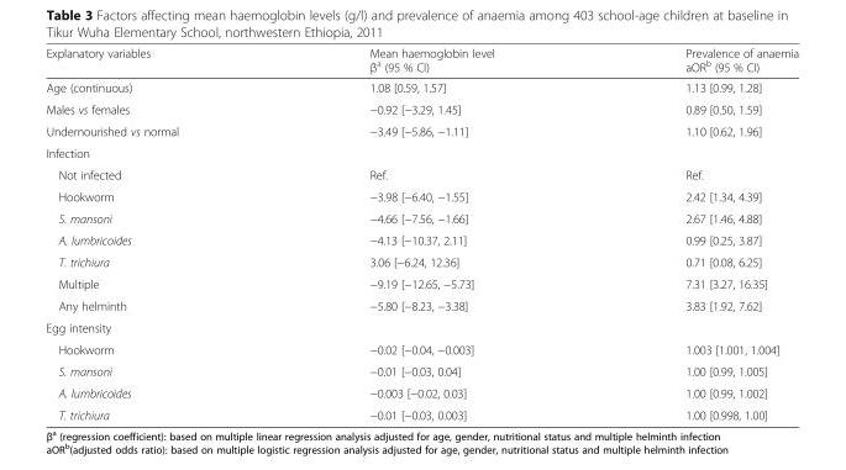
<table><thead><tr><td>Explanatory variables</td><td>Mean haemoglobin level β<sup>a</sup> (95 % CI)</td><td>Prevalence of anaemia aOR<sup>b</sup> (95 % CI)</td></tr></thead><tbody><tr><td>Age (continuous)</td><td>1.08 [0.59, 1.57]</td><td>1.13 [0.99, 1.28]</td></tr><tr><td>Males vs females</td><td>−0.92 [−3.29, 1.45]</td><td>0.89 [0.50, 1.59]</td></tr><tr><td>Undernourished vs normal</td><td>−3.49 [−5.86, −1.11]</td><td>1.10 [0.62, 1.96]</td></tr><tr><td colspan="3">Infection</td></tr><tr><td>Not infected</td><td>Ref.</td><td>Ref.</td></tr><tr><td>Hookworm</td><td>−3.98 [−6.40, −1.55]</td><td>2.42 [1.34, 4.39]</td></tr><tr><td>S. mansoni</td><td>−4.66 [−7.56, −1.66]</td><td>2.67 [1.46, 4.88]</td></tr><tr><td>A. lumbricoides</td><td>−4.13 [−10.37, 2.11]</td><td>0.99 [0.25, 3.87]</td></tr><tr><td>T. trichiura</td><td>3.06 [−6.24, 12.36]</td><td>0.71 [0.08, 6.25]</td></tr><tr><td>Multiple</td><td>−9.19 [−12.65, −5.73]</td><td>7.31 [3.27, 16.35]</td></tr><tr><td>Any helminth</td><td>−5.80 [−8.23, −3.38]</td><td>3.83 [1.92, 7.62]</td></tr><tr><td colspan="3">Egg intensity</td></tr><tr><td>Hookworm</td><td>−0.02 [−0.04, −0.003]</td><td>1.003 [1.001, 1.004]</td></tr><tr><td>S. mansoni</td><td>−0.01 [−0.03, 0.04]</td><td>1.00 [0.99, 1.005]</td></tr><tr><td>A. lumbricoides</td><td>−0.003 [−0.02, 0.03]</td><td>1.00 [0.99, 1.002]</td></tr><tr><td>T. trichiura</td><td>−0.01 [−0.03, 0.003]</td><td>1.00 [0.998, 1.00]</td></tr></tbody></table>